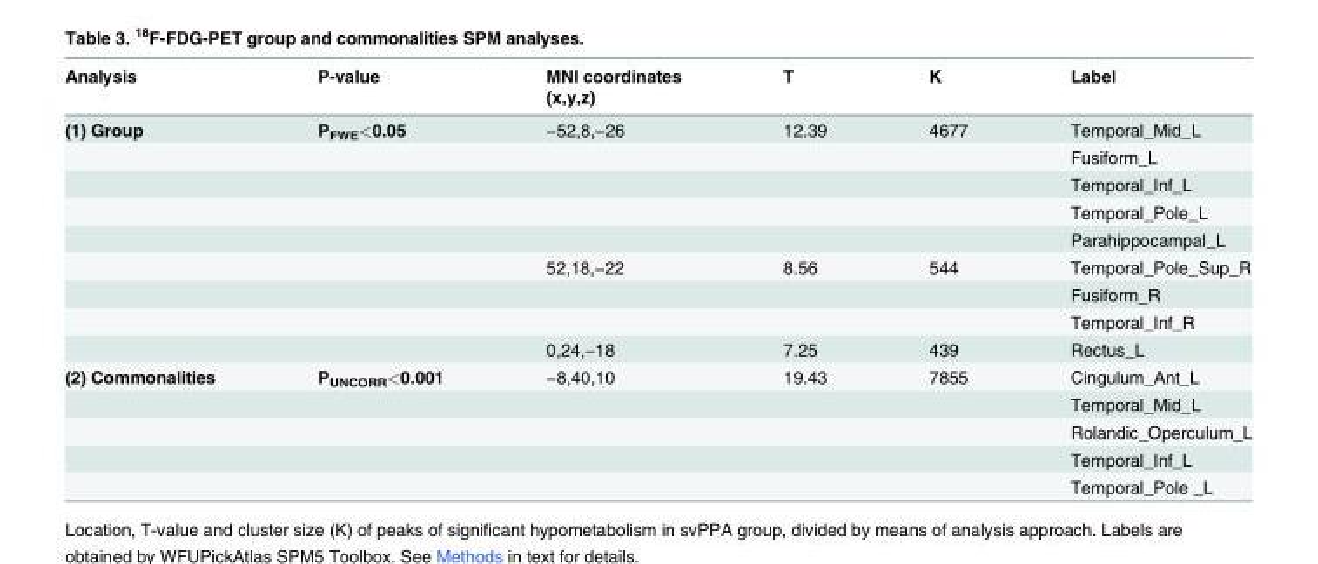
<table><thead><tr><td rowspan="2">Analysis</td><td rowspan="2">P-value</td><td rowspan="2">MNI coordinates (x,y,z)</td><td rowspan="2">T</td><td rowspan="2">K</td><td rowspan="2">Label</td></tr><tr></tr></thead><tbody><tr><td rowspan="9">(1) Group</td><td>P<sub>FWE</sub>&lt;0.05</td><td>−52,8,−26</td><td>12.39</td><td>4677</td><td>Temporal_Mid_L</td></tr><tr><td></td><td></td><td></td><td></td><td>Fusiform_L</td></tr><tr><td></td><td></td><td></td><td></td><td>Temporal_Inf_L</td></tr><tr><td></td><td></td><td></td><td></td><td>Temporal_Pole_L</td></tr><tr><td></td><td></td><td></td><td></td><td>Parahippocampal_L</td></tr><tr><td></td><td>52,18,−22</td><td>8.56</td><td>544</td><td>Temporal_Pole_Sup_R</td></tr><tr><td></td><td></td><td></td><td></td><td>Fusiform_R</td></tr><tr><td></td><td></td><td></td><td></td><td>Temporal_Inf_R</td></tr><tr><td></td><td>0,24,−18</td><td>7.25</td><td>439</td><td>Rectus_L</td></tr><tr><td rowspan="5">(2) Commonalities</td><td>P<sub>UNCORR</sub>&lt;0.001</td><td>−8,40,10</td><td>19.43</td><td>7855</td><td>Cingulum_Ant_L</td></tr><tr><td></td><td></td><td></td><td></td><td>Temporal_Mid_L</td></tr><tr><td></td><td></td><td></td><td></td><td>Rolandic_Operculum_L</td></tr><tr><td></td><td></td><td></td><td></td><td>Temporal_Inf_L</td></tr><tr><td></td><td></td><td></td><td></td><td>Temporal_Pole _L</td></tr></tbody></table>